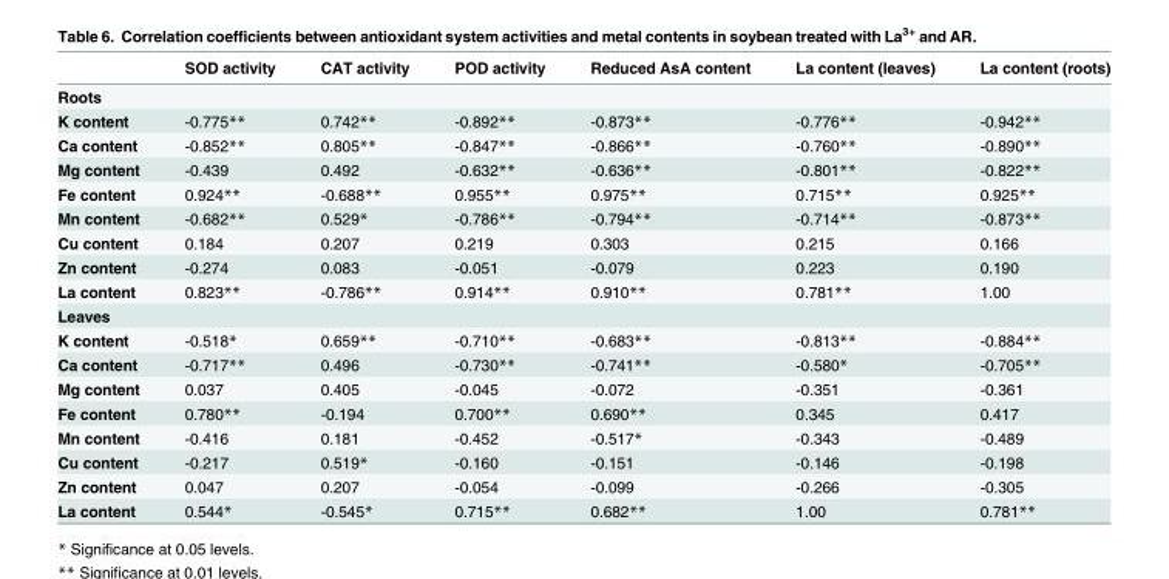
<table><thead><tr><td></td><td>SOD activity</td><td>CAT activity</td><td>POD activity</td><td>Reduced AsA content</td><td>La content (leaves)</td><td>La content (roots)</td></tr></thead><tbody><tr><td colspan="7">Roots</td></tr><tr><td>K content</td><td>-0.775**</td><td>0.742**</td><td>-0.892**</td><td>-0.873**</td><td>-0.776**</td><td>-0.942**</td></tr><tr><td>Ca content</td><td>-0.852**</td><td>0.805**</td><td>-0.847**</td><td>-0.866**</td><td>-0.760**</td><td>-0.890**</td></tr><tr><td>Mg content</td><td>-0.439</td><td>0.492</td><td>-0.632**</td><td>-0.636**</td><td>-0.801**</td><td>-0.822**</td></tr><tr><td>Fe content</td><td>0.924**</td><td>-0.688**</td><td>0.955**</td><td>0.975**</td><td>0.715**</td><td>0.925**</td></tr><tr><td>Mn content</td><td>-0.682**</td><td>0.529*</td><td>-0.786**</td><td>-0.794**</td><td>-0.714**</td><td>-0.873**</td></tr><tr><td>Cu content</td><td>0.184</td><td>0.207</td><td>0.219</td><td>0.303</td><td>0.215</td><td>0.166</td></tr><tr><td>Zn content</td><td>-0.274</td><td>0.083</td><td>-0.051</td><td>-0.079</td><td>0.223</td><td>0.190</td></tr><tr><td>La content</td><td>0.823**</td><td>-0.786**</td><td>0.914**</td><td>0.910**</td><td>0.781**</td><td>1.00</td></tr><tr><td colspan="7">Leaves</td></tr><tr><td>K content</td><td>-0.518*</td><td>0.659**</td><td>-0.710**</td><td>-0.683**</td><td>-0.813**</td><td>-0.884**</td></tr><tr><td>Ca content</td><td>-0.717**</td><td>0.496</td><td>-0.730**</td><td>-0.741**</td><td>-0.580*</td><td>-0.705**</td></tr><tr><td>Mg content</td><td>0.037</td><td>0.405</td><td>-0.045</td><td>-0.072</td><td>-0.351</td><td>-0.361</td></tr><tr><td>Fe content</td><td>0.780**</td><td>-0.194</td><td>0.700**</td><td>0.690**</td><td>0.345</td><td>0.417</td></tr><tr><td>Mn content</td><td>-0.416</td><td>0.181</td><td>-0.452</td><td>-0.517*</td><td>-0.343</td><td>-0.489</td></tr><tr><td>Cu content</td><td>-0.217</td><td>0.519*</td><td>-0.160</td><td>-0.151</td><td>-0.146</td><td>-0.198</td></tr><tr><td>Zn content</td><td>0.047</td><td>0.207</td><td>-0.054</td><td>-0.099</td><td>-0.266</td><td>-0.305</td></tr><tr><td>La content</td><td>0.544*</td><td>-0.545*</td><td>0.715**</td><td>0.682**</td><td>1.00</td><td>0.781**</td></tr></tbody></table>